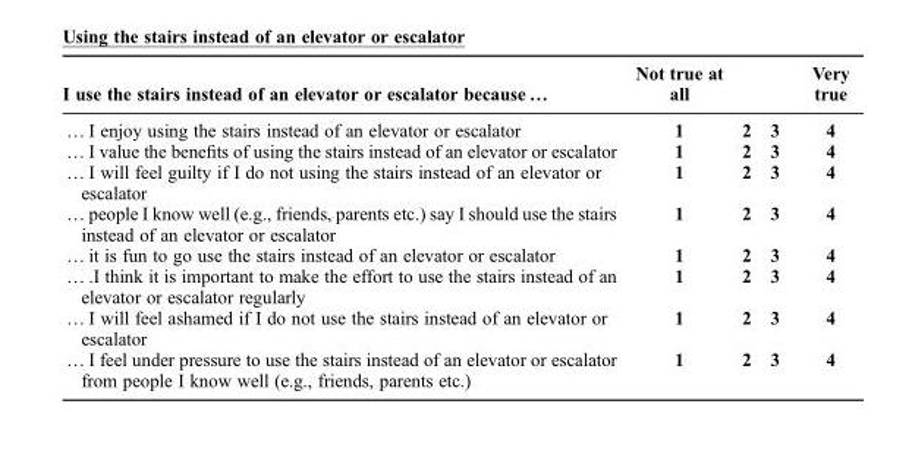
<table><thead><tr><td>I use the stairs instead of an elevator or escalator because …</td><td>Not true at all</td><td></td><td></td><td>Very true</td></tr></thead><tbody><tr><td>… I enjoy using the stairs instead of an elevator or escalator</td><td>1</td><td>2</td><td>3</td><td>4</td></tr><tr><td>… I value the benefits of using the stairs instead of an elevator or escalator</td><td>1</td><td>2</td><td>3</td><td>4</td></tr><tr><td>… I will feel guilty if I do not using the stairs instead of an elevator or escalator</td><td>1</td><td>2</td><td>3</td><td>4</td></tr><tr><td>… people I know well (e.g., friends, parents etc.) say I should use the stairs instead of an elevator or escalator</td><td>1</td><td>2</td><td>3</td><td>4</td></tr><tr><td>… it is fun to go use the stairs instead of an elevator or escalator</td><td>1</td><td>2</td><td>3</td><td>4</td></tr><tr><td>… .I think it is important to make the effort to use the stairs instead of an elevator or escalator regularly</td><td>1</td><td>2</td><td>3</td><td>4</td></tr><tr><td>… I will feel ashamed if I do not use the stairs instead of an elevator or escalator</td><td>1</td><td>2</td><td>3</td><td>4</td></tr><tr><td>… I feel under pressure to use the stairs instead of an elevator or escalator from people I know well (e.g., friends, parents etc.)</td><td>1</td><td>2</td><td>3</td><td>4</td></tr></tbody></table>